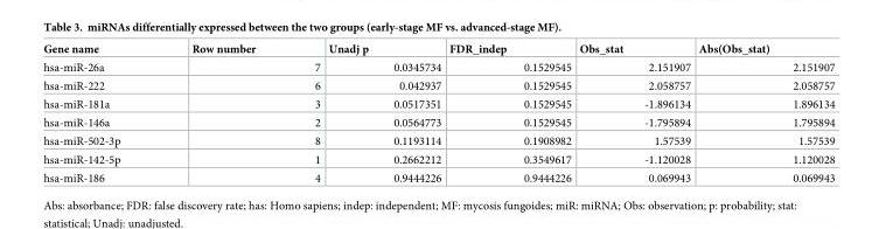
<table><thead><tr><td>Gene name</td><td>Row number</td><td>Unadj p</td><td>FDR_indep</td><td>Obs_stat</td><td>Abs(Obs_stat)</td></tr></thead><tbody><tr><td>hsa-miR-26a</td><td>7</td><td>0.0345734</td><td>0.1529545</td><td>2.151907</td><td>2.151907</td></tr><tr><td>hsa-miR-222</td><td>6</td><td>0.042937</td><td>0.1529545</td><td>2.058757</td><td>2.058757</td></tr><tr><td>hsa-miR-181a</td><td>3</td><td>0.0517351</td><td>0.1529545</td><td>-1.896134</td><td>1.896134</td></tr><tr><td>hsa-miR-146a</td><td>2</td><td>0.0564773</td><td>0.1529545</td><td>-1.795894</td><td>1.795894</td></tr><tr><td>hsa-miR-502-3p</td><td>8</td><td>0.1193114</td><td>0.1908982</td><td>1.57539</td><td>1.57539</td></tr><tr><td>hsa-miR-142-5p</td><td>1</td><td>0.2662212</td><td>0.3549617</td><td>-1.120028</td><td>1.120028</td></tr><tr><td>hsa-miR-186</td><td>4</td><td>0.9444226</td><td>0.9444226</td><td>0.069943</td><td>0.069943</td></tr></tbody></table>